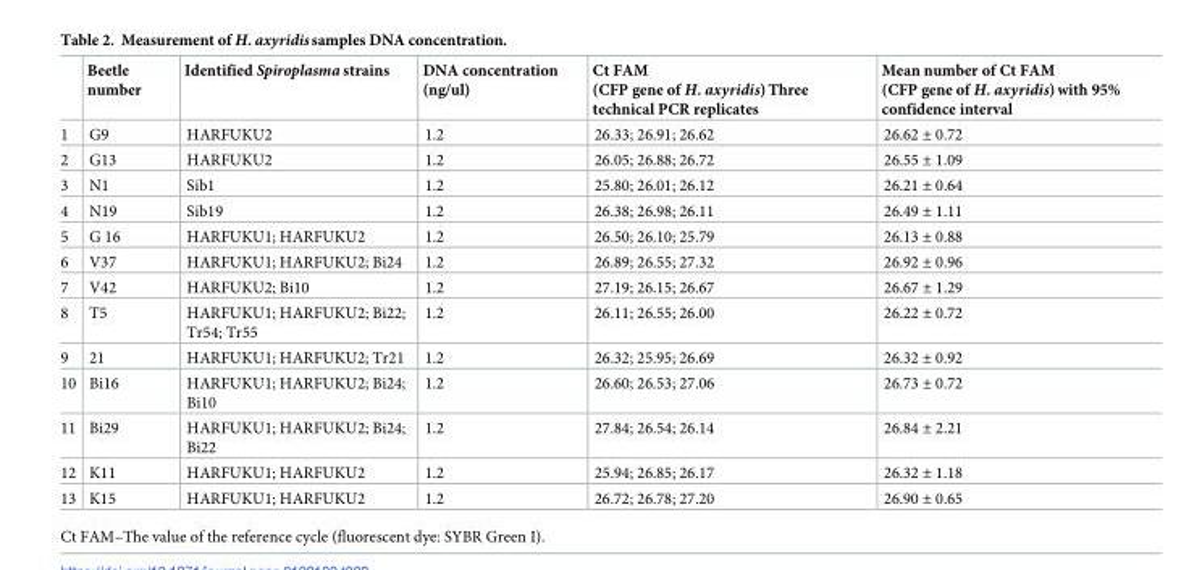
<table><thead><tr><td></td><td>Beetle number</td><td>Identified Spiroplasma strains</td><td>DNA concentration (ng/ul)</td><td>Ct FAM (CFP gene of H. axyridis)Three technical PCR replicates</td><td>Mean number of Ct FAM (CFP gene of H. axyridis)with 95% confidence interval</td></tr></thead><tbody><tr><td>1</td><td>G9</td><td>HARFUKU2</td><td>1.2</td><td>26.33; 26.91; 26.62</td><td>26.62 ± 0.72</td></tr><tr><td>2</td><td>G13</td><td>HARFUKU2</td><td>1.2</td><td>26.05; 26.88; 26.72</td><td>26.55 ± 1.09</td></tr><tr><td>3</td><td>N1</td><td>Sib1</td><td>1.2</td><td>25.80; 26.01; 26.12</td><td>26.21 ± 0.64</td></tr><tr><td>4</td><td>N19</td><td>Sib19</td><td>1.2</td><td>26.38; 26.98; 26.11</td><td>26.49 ± 1.11</td></tr><tr><td>5</td><td>G 16</td><td>HARFUKU1; HARFUKU2</td><td>1.2</td><td>26.50; 26.10; 25.79</td><td>26.13 ± 0.88</td></tr><tr><td>6</td><td>V37</td><td>HARFUKU1; HARFUKU2; Bi24</td><td>1.2</td><td>26.89; 26.55; 27.32</td><td>26.92 ± 0.96</td></tr><tr><td>7</td><td>V42</td><td>HARFUKU2; Bi10</td><td>1.2</td><td>27.19; 26.15; 26.67</td><td>26.67 ± 1.29</td></tr><tr><td>8</td><td>T5</td><td>HARFUKU1; HARFUKU2; Bi22; Tr54; Tr55</td><td>1.2</td><td>26.11; 26.55; 26.00</td><td>26.22 ± 0.72</td></tr><tr><td>9</td><td>21</td><td>HARFUKU1; HARFUKU2; Tr21</td><td>1.2</td><td>26.32; 25.95; 26.69</td><td>26.32 ± 0.92</td></tr><tr><td>10</td><td>Bi16</td><td>HARFUKU1; HARFUKU2; Bi24; Bi10</td><td>1.2</td><td>26.60; 26.53; 27.06</td><td>26.73 ± 0.72</td></tr><tr><td>11</td><td>Bi29</td><td>HARFUKU1; HARFUKU2; Bi24; Bi22</td><td>1.2</td><td>27.84; 26.54; 26.14</td><td>26.84 ± 2.21</td></tr><tr><td>12</td><td>K11</td><td>HARFUKU1; HARFUKU2</td><td>1.2</td><td>25.94; 26.85; 26.17</td><td>26.32 ± 1.18</td></tr><tr><td>13</td><td>K15</td><td>HARFUKU1; HARFUKU2</td><td>1.2</td><td>26.72; 26.78; 27.20</td><td>26.90 ± 0.65</td></tr></tbody></table>